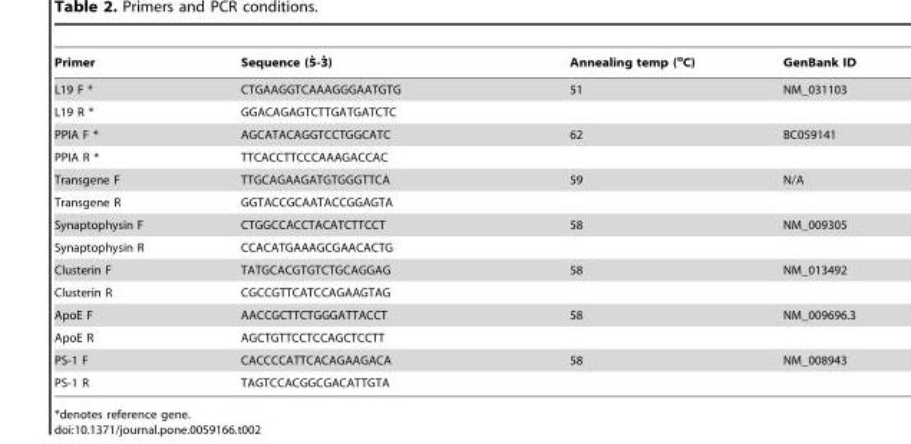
<table><thead><tr><td>Primer</td><td>Sequence (5`-3`)</td><td>Annealing temp (<sup>o</sup>C)</td><td>GenBank ID</td></tr></thead><tbody><tr><td>L19 F *</td><td>CTGAAGGTCAAAGGGAATGTG</td><td>51</td><td>NM_031103</td></tr><tr><td>L19 R *</td><td>GGACAGAGTCTTGATGATCTC</td><td></td><td></td></tr><tr><td>PPIA F *</td><td>AGCATACAGGTCCTGGCATC</td><td>62</td><td>BC059141</td></tr><tr><td>PPIA R *</td><td>TTCACCTTCCCAAAGACCAC</td><td></td><td></td></tr><tr><td>Transgene F</td><td>TTGCAGAAGATGTGGGTTCA</td><td>59</td><td>N/A</td></tr><tr><td>Transgene R</td><td>GGTACCGCAATACCGGAGTA</td><td></td><td></td></tr><tr><td>Synaptophysin F</td><td>CTGGCCACCTACATCTTCCT</td><td>58</td><td>NM_009305</td></tr><tr><td>Synaptophysin R</td><td>CCACATGAAAGCGAACACTG</td><td></td><td></td></tr><tr><td>Clusterin F</td><td>TATGCACGTGTCTGCAGGAG</td><td>58</td><td>NM_013492</td></tr><tr><td>Clusterin R</td><td>CGCCGTTCATCCAGAAGTAG</td><td></td><td></td></tr><tr><td>ApoE F</td><td>AACCGCTTCTGGGATTACCT</td><td>58</td><td>NM_009696.3</td></tr><tr><td>ApoE R</td><td>AGCTGTTCCTCCAGCTCCTT</td><td></td><td></td></tr><tr><td>PS-1 F</td><td>CACCCCATTCACAGAAGACA</td><td>58</td><td>NM_008943</td></tr><tr><td>PS-1 R</td><td>TAGTCCACGGCGACATTGTA</td><td></td><td></td></tr></tbody></table>